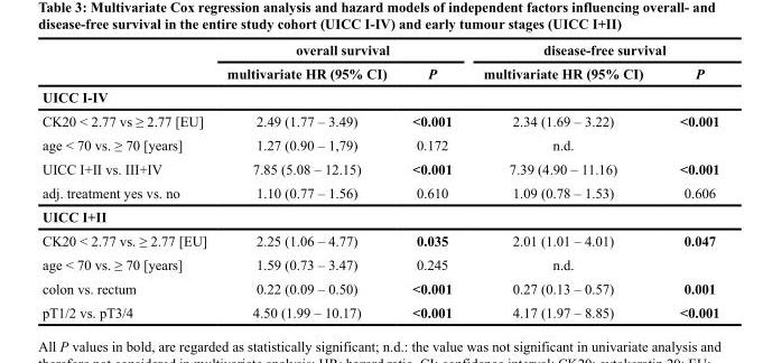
<table><thead><tr><td rowspan="2"></td><td colspan="2">overall survival</td><td colspan="2">disease-free survival</td></tr><tr><td>multivariate HR (95% CI)</td><td>P</td><td>multivariate HR (95% CI)</td><td>P</td></tr></thead><tbody><tr><td colspan="5">UICC I-IV</td></tr><tr><td>CK20 &lt; 2.77 vs ≥ 2.77 [EU]</td><td>2.49 (1.77 – 3.49)</td><td>&lt;0.001</td><td>2.34 (1.69 – 3.22)</td><td>&lt;0.001</td></tr><tr><td>age &lt; 70 vs. ≥ 70 [years]</td><td>1.27 (0.90 – 1,79)</td><td>0.172</td><td>n.d.</td><td></td></tr><tr><td>UICC I+II vs. III+IV</td><td>7.85 (5.08 – 12.15)</td><td>&lt;0.001</td><td>7.39 (4.90 – 11.16)</td><td>&lt;0.001</td></tr><tr><td>adj. treatment yes vs. no</td><td>1.10 (0.77 – 1.56)</td><td>0.610</td><td>1.09 (0.78 – 1.53)</td><td>0.606</td></tr><tr><td colspan="5">UICC I+II</td></tr><tr><td>CK20 &lt; 2.77 vs. ≥ 2.77 [EU]</td><td>2.25 (1.06 – 4.77)</td><td>0.035</td><td>2.01 (1.01 – 4.01)</td><td>0.047</td></tr><tr><td>age &lt; 70 vs. ≥ 70 [years]</td><td>1.59 (0.73 – 3.47)</td><td>0.245</td><td>n.d.</td><td></td></tr><tr><td>colon vs. rectum</td><td>0.22 (0.09 – 0.50)</td><td>&lt;0.001</td><td>0.27 (0.13 – 0.57)</td><td>0.001</td></tr><tr><td>pT1/2 vs. pT3/4</td><td>4.50 (1.99 – 10.17)</td><td>&lt;0.001</td><td>4.17 (1.97 – 8.85)</td><td>&lt;0.001</td></tr></tbody></table>